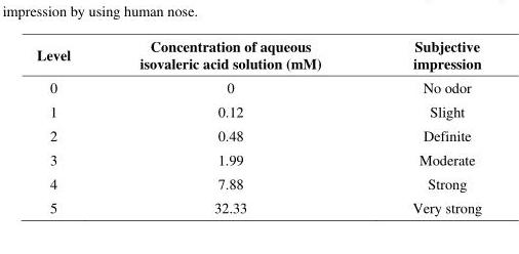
<table><thead><tr><td>Level</td><td>Concentration of aqueous isovaleric acid solution (mM)</td><td>Subjective impression</td></tr></thead><tbody><tr><td>0</td><td>0</td><td>No odor</td></tr><tr><td>1</td><td>0.12</td><td>Slight</td></tr><tr><td>2</td><td>0.48</td><td>Definite</td></tr><tr><td>3</td><td>1.99</td><td>Moderate</td></tr><tr><td>4</td><td>7.88</td><td>Strong</td></tr><tr><td>5</td><td>32.33</td><td>Very strong</td></tr></tbody></table>